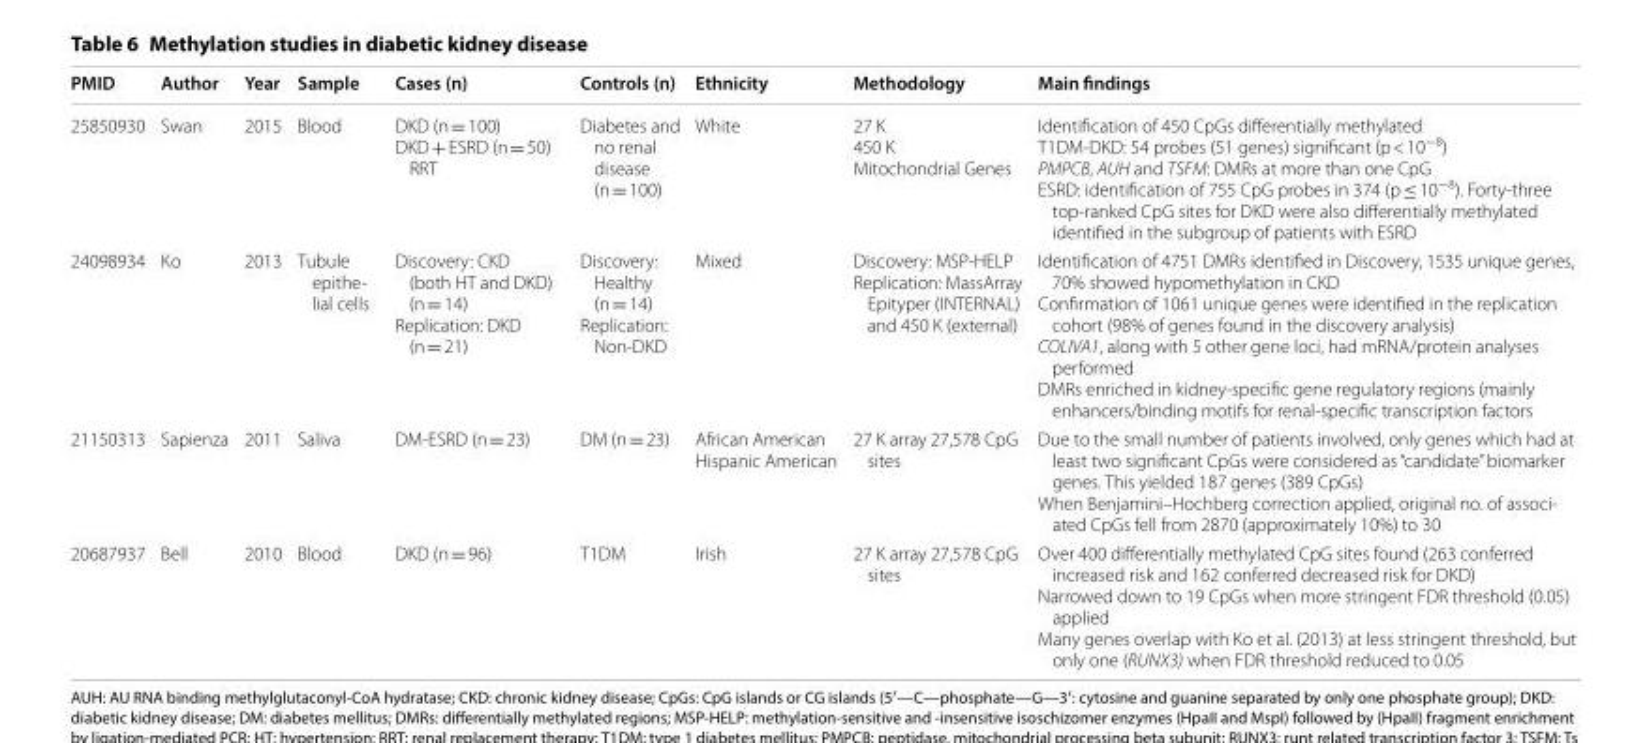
<table><thead><tr><td>PMID</td><td>Author</td><td>Year</td><td>Sample</td><td>Cases (n)</td><td>Controls (n)</td><td>Ethnicity</td><td>Methodology</td><td>Main findings</td></tr></thead><tbody><tr><td>25850930</td><td>Swan</td><td>2015</td><td>Blood</td><td>DKD (n = 100) DKD + ESRD (n = 50) RRT</td><td>Diabetes and no renal disease (n = 100)</td><td>White</td><td>27 K 450 K Mitochondrial Genes</td><td>Identification of 450 CpGs differentially methylated T1DM‑DKD: 54 probes (51 genes) significant (p &lt; 10<sup>−8</sup>) PMPCB, AUH and TSFM: DMRs at more than one CpG ESRD: identification of 755 CpG probes in 374 (p ≤ 10<sup>−8</sup>). Forty‑three top‑ranked CpG sites for DKD were also differentially methylated identified in the subgroup of patients with ESRD</td></tr><tr><td>24098934</td><td>Ko</td><td>2013</td><td>Tubule epithe‑ lial cells</td><td>Discovery: CKD (both HT and DKD) (n = 14) Replication: DKD (n = 21)</td><td>Discovery: Healthy (n = 14) Replication: Non‑DKD</td><td>Mixed</td><td>Discovery: MSP‑HELP Replication: MassArray Epityper (INTERNAL) and 450 K (external)</td><td>Identification of 4751 DMRs identified in Discovery, 1535 unique genes, 70% showed hypomethylation in CKD Confirmation of 1061 unique genes were identified in the replication cohort (98% of genes found in the discovery analysis) COLIVA1, along with 5 other gene loci, had mRNA/protein analyses performed DMRs enriched in kidney‑specific gene regulatory regions (mainly enhancers/binding motifs for renal‑specific transcription factors</td></tr><tr><td>21150313</td><td>Sapienza</td><td>2011</td><td>Saliva</td><td>DM‑ESRD (n = 23)</td><td>DM (n = 23)</td><td>African American Hispanic American</td><td>27 K array 27,578 CpG sites</td><td>Due to the small number of patients involved, only genes which had at least two significant CpGs were considered as “candidate” biomarker genes. This yielded 187 genes (389 CpGs) When Benjamini–Hochberg correction applied, original no. of associ‑ ated CpGs fell from 2870 (approximately 10%) to 30</td></tr><tr><td>20687937</td><td>Bell</td><td>2010</td><td>Blood</td><td>DKD (n = 96)</td><td>T1DM</td><td>Irish</td><td>27 K array 27,578 CpG sites</td><td>Over 400 differentially methylated CpG sites found (263 conferred increased risk and 162 conferred decreased risk for DKD) Narrowed down to 19 CpGs when more stringent FDR threshold (0.05) applied Many genes overlap with Ko et al. (2013) at less stringent threshold, but only one (RUNX3) when FDR threshold reduced to 0.05</td></tr></tbody></table>